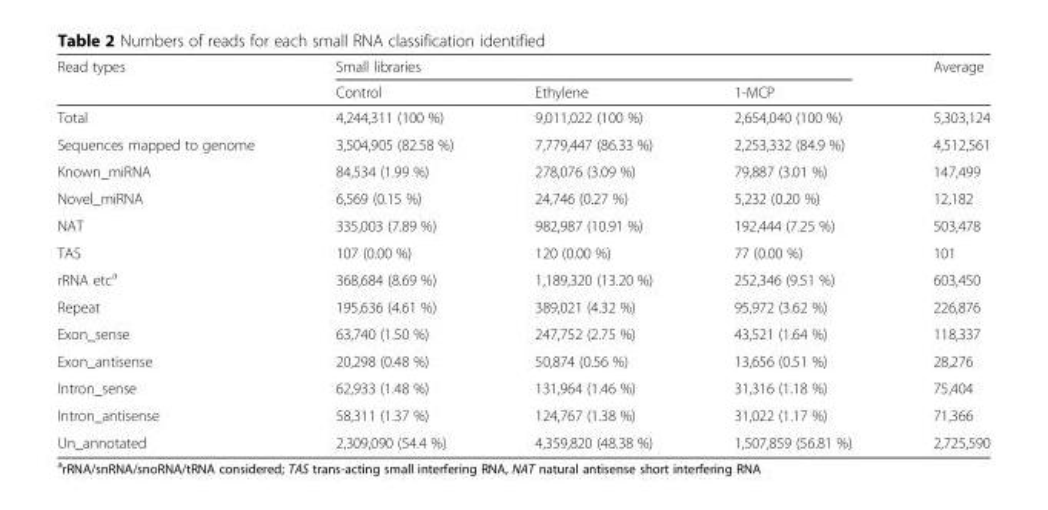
<table><thead><tr><td rowspan="2">Read types</td><td colspan="3">Small libraries</td><td rowspan="2">Average</td></tr><tr><td>Control</td><td>Ethylene</td><td>1-MCP</td></tr></thead><tbody><tr><td>Total</td><td>4,244,311 (100 %)</td><td>9,011,022 (100 %)</td><td>2,654,040 (100 %)</td><td>5,303,124</td></tr><tr><td>Sequences mapped to genome</td><td>3,504,905 (82.58 %)</td><td>7,779,447 (86.33 %)</td><td>2,253,332 (84.9 %)</td><td>4,512,561</td></tr><tr><td>Known_miRNA</td><td>84,534 (1.99 %)</td><td>278,076 (3.09 %)</td><td>79,887 (3.01 %)</td><td>147,499</td></tr><tr><td>Novel_miRNA</td><td>6,569 (0.15 %)</td><td>24,746 (0.27 %)</td><td>5,232 (0.20 %)</td><td>12,182</td></tr><tr><td>NAT</td><td>335,003 (7.89 %)</td><td>982,987 (10.91 %)</td><td>192,444 (7.25 %)</td><td>503,478</td></tr><tr><td>TAS</td><td>107 (0.00 %)</td><td>120 (0.00 %)</td><td>77 (0.00 %)</td><td>101</td></tr><tr><td>rRNA etc<sup>a</sup></td><td>368,684 (8.69 %)</td><td>1,189,320 (13.20 %)</td><td>252,346 (9.51 %)</td><td>603,450</td></tr><tr><td>Repeat</td><td>195,636 (4.61 %)</td><td>389,021 (4.32 %)</td><td>95,972 (3.62 %)</td><td>226,876</td></tr><tr><td>Exon_sense</td><td>63,740 (1.50 %)</td><td>247,752 (2.75 %)</td><td>43,521 (1.64 %)</td><td>118,337</td></tr><tr><td>Exon_antisense</td><td>20,298 (0.48 %)</td><td>50,874 (0.56 %)</td><td>13,656 (0.51 %)</td><td>28,276</td></tr><tr><td>Intron_sense</td><td>62,933 (1.48 %)</td><td>131,964 (1.46 %)</td><td>31,316 (1.18 %)</td><td>75,404</td></tr><tr><td>Intron_antisense</td><td>58,311 (1.37 %)</td><td>124,767 (1.38 %)</td><td>31,022 (1.17 %)</td><td>71,366</td></tr><tr><td>Un_annotated</td><td>2,309,090 (54.4 %)</td><td>4,359,820 (48.38 %)</td><td>1,507,859 (56.81 %)</td><td>2,725,590</td></tr></tbody></table>